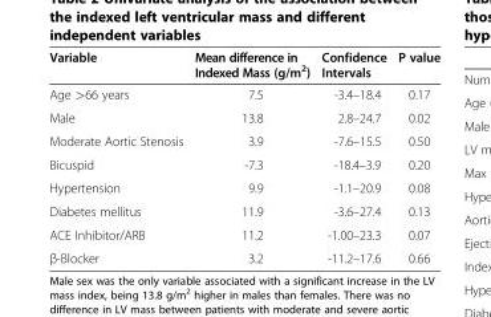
<table><thead><tr><td>Variable</td><td>Mean difference in Indexed Mass (g/m<sup>2</sup>)</td><td>Confidence Intervals</td><td>P value</td></tr></thead><tbody><tr><td>Age &gt;66 years</td><td>7.5</td><td>-3.4–18.4</td><td>0.17</td></tr><tr><td>Male</td><td>13.8</td><td>2.8–24.7</td><td>0.02</td></tr><tr><td>Moderate Aortic Stenosis</td><td>3.9</td><td>-7.6–15.5</td><td>0.50</td></tr><tr><td>Bicuspid</td><td>-7.3</td><td>-18.4–3.9</td><td>0.20</td></tr><tr><td>Hypertension</td><td>9.9</td><td>-1.1–20.9</td><td>0.08</td></tr><tr><td>Diabetes mellitus</td><td>11.9</td><td>-3.6–27.4</td><td>0.13</td></tr><tr><td>ACE Inhibitor/ARB</td><td>11.2</td><td>-1.00–23.3</td><td>0.07</td></tr><tr><td>β-Blocker</td><td>3.2</td><td>-11.2–17.6</td><td>0.66</td></tr></tbody></table>